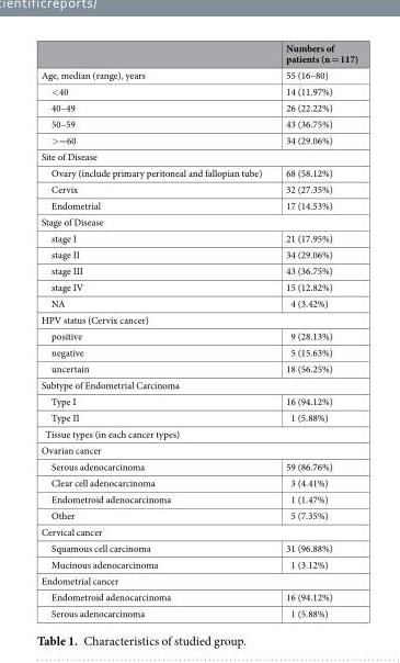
<table><thead><tr><td></td><td>Numbers of patients (n = 117)</td></tr></thead><tbody><tr><td>Age, median (range), years</td><td>55 (16–80)</td></tr><tr><td>&lt;40</td><td>14 (11.97%)</td></tr><tr><td>40–49</td><td>26 (22.22%)</td></tr><tr><td>50–59</td><td>43 (36.75%)</td></tr><tr><td>&gt;=60</td><td>34 (29.06%)</td></tr><tr><td colspan="2">Site of Disease</td></tr><tr><td>Ovary (include primary peritoneal and fallopian tube)</td><td>68 (58.12%)</td></tr><tr><td>Cervix</td><td>32 (27.35%)</td></tr><tr><td>Endometrial</td><td>17 (14.53%)</td></tr><tr><td colspan="2">Stage of Disease</td></tr><tr><td>stage I</td><td>21 (17.95%)</td></tr><tr><td>stage II</td><td>34 (29.06%)</td></tr><tr><td>stage III</td><td>43 (36.75%)</td></tr><tr><td>stage IV</td><td>15 (12.82%)</td></tr><tr><td>NA</td><td>4 (3.42%)</td></tr><tr><td colspan="2">HPV status (Cervix cancer)</td></tr><tr><td>positive</td><td>9 (28.13%)</td></tr><tr><td>negative</td><td>5 (15.63%)</td></tr><tr><td>uncertain</td><td>18 (56.25%)</td></tr><tr><td colspan="2">Subtype of Endometrial Carcinoma</td></tr><tr><td>Type I</td><td>16 (94.12%)</td></tr><tr><td>Type II</td><td>1 (5.88%)</td></tr><tr><td colspan="2">Tissue types (in each cancer types)</td></tr><tr><td colspan="2">Ovarian cancer</td></tr><tr><td>Serous adenocarcinoma</td><td>59 (86.76%)</td></tr><tr><td>Clear cell adenocarcinoma</td><td>3 (4.41%)</td></tr><tr><td>Endometroid adenocarcinoma</td><td>1 (1.47%)</td></tr><tr><td>Other</td><td>5 (7.35%)</td></tr><tr><td colspan="2">Cervical cancer</td></tr><tr><td>Squamous cell carcinoma</td><td>31 (96.88%)</td></tr><tr><td>Mucinous adenocarcinoma</td><td>1 (3.12%)</td></tr><tr><td colspan="2">Endometrial cancer</td></tr><tr><td>Endometroid adenocarcinoma</td><td>16 (94.12%)</td></tr><tr><td>Serous adenocarcinoma</td><td>1 (5.88%)</td></tr></tbody></table>